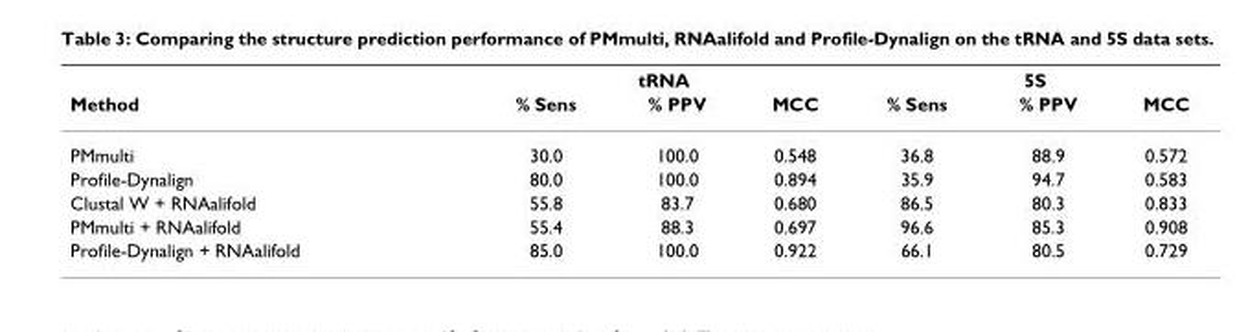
<table><thead><tr><td rowspan="2">Method</td><td colspan="3">tRNA</td><td colspan="3">5S</td></tr><tr><td>% Sens</td><td>% PPV</td><td>MCC</td><td>% Sens</td><td>% PPV</td><td>MCC</td></tr></thead><tbody><tr><td>PMmulti</td><td>30.0</td><td>100.0</td><td>0.548</td><td>36.8</td><td>88.9</td><td>0.572</td></tr><tr><td>Profile-Dynalign</td><td>80.0</td><td>100.0</td><td>0.894</td><td>35.9</td><td>94.7</td><td>0.583</td></tr><tr><td>Clustal W + RNAalifold</td><td>55.8</td><td>83.7</td><td>0.680</td><td>86.5</td><td>80.3</td><td>0.833</td></tr><tr><td>PMmulti + RNAalifold</td><td>55.4</td><td>88.3</td><td>0.697</td><td>96.6</td><td>85.3</td><td>0.908</td></tr><tr><td>Profile-Dynalign + RNAalifold</td><td>85.0</td><td>100.0</td><td>0.922</td><td>66.1</td><td>80.5</td><td>0.729</td></tr></tbody></table>